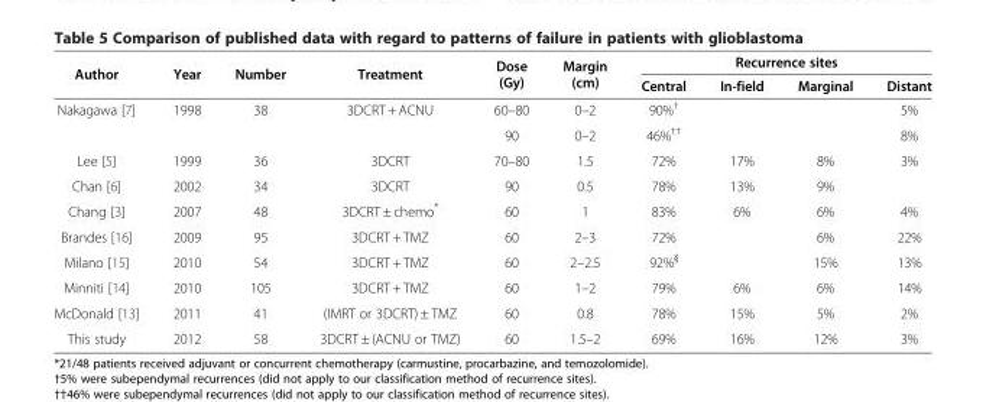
<table><thead><tr><td rowspan="2">Author</td><td rowspan="2">Year</td><td rowspan="2">Number</td><td rowspan="2">Treatment</td><td rowspan="2">Dose (Gy)</td><td rowspan="2">Margin (cm)</td><td colspan="4">Recurrence sites</td></tr><tr><td>Central</td><td>In-field</td><td>Marginal</td><td>Distant</td></tr></thead><tbody><tr><td rowspan="2">Nakagawa [7]</td><td>1998</td><td>38</td><td>3DCRT + ACNU</td><td>60–80</td><td>0–2</td><td>90%<sup>†</sup></td><td></td><td></td><td>5%</td></tr><tr><td></td><td></td><td></td><td>90</td><td>0–2</td><td>46%<sup>††</sup></td><td></td><td></td><td>8%</td></tr><tr><td>Lee [5]</td><td>1999</td><td>36</td><td>3DCRT</td><td>70–80</td><td>1.5</td><td>72%</td><td>17%</td><td>8%</td><td>3%</td></tr><tr><td>Chan [6]</td><td>2002</td><td>34</td><td>3DCRT</td><td>90</td><td>0.5</td><td>78%</td><td>13%</td><td>9%</td><td></td></tr><tr><td>Chang [3]</td><td>2007</td><td>48</td><td>3DCRT ± chemo*</td><td>60</td><td>1</td><td>83%</td><td>6%</td><td>6%</td><td>4%</td></tr><tr><td>Brandes [16]</td><td>2009</td><td>95</td><td>3DCRT + TMZ</td><td>60</td><td>2–3</td><td>72%</td><td></td><td>6%</td><td>22%</td></tr><tr><td>Milano [15]</td><td>2010</td><td>54</td><td>3DCRT + TMZ</td><td>60</td><td>2–2.5</td><td>92%<sup>§</sup></td><td></td><td>15%</td><td>13%</td></tr><tr><td>Minniti [14]</td><td>2010</td><td>105</td><td>3DCRT + TMZ</td><td>60</td><td>1–2</td><td>79%</td><td>6%</td><td>6%</td><td>14%</td></tr><tr><td>McDonald [13]</td><td>2011</td><td>41</td><td>(IMRT or 3DCRT) ± TMZ</td><td>60</td><td>0.8</td><td>78%</td><td>15%</td><td>5%</td><td>2%</td></tr><tr><td>This study</td><td>2012</td><td>58</td><td>3DCRT ± (ACNU or TMZ)</td><td>60</td><td>1.5–2</td><td>69%</td><td>16%</td><td>12%</td><td>3%</td></tr></tbody></table>